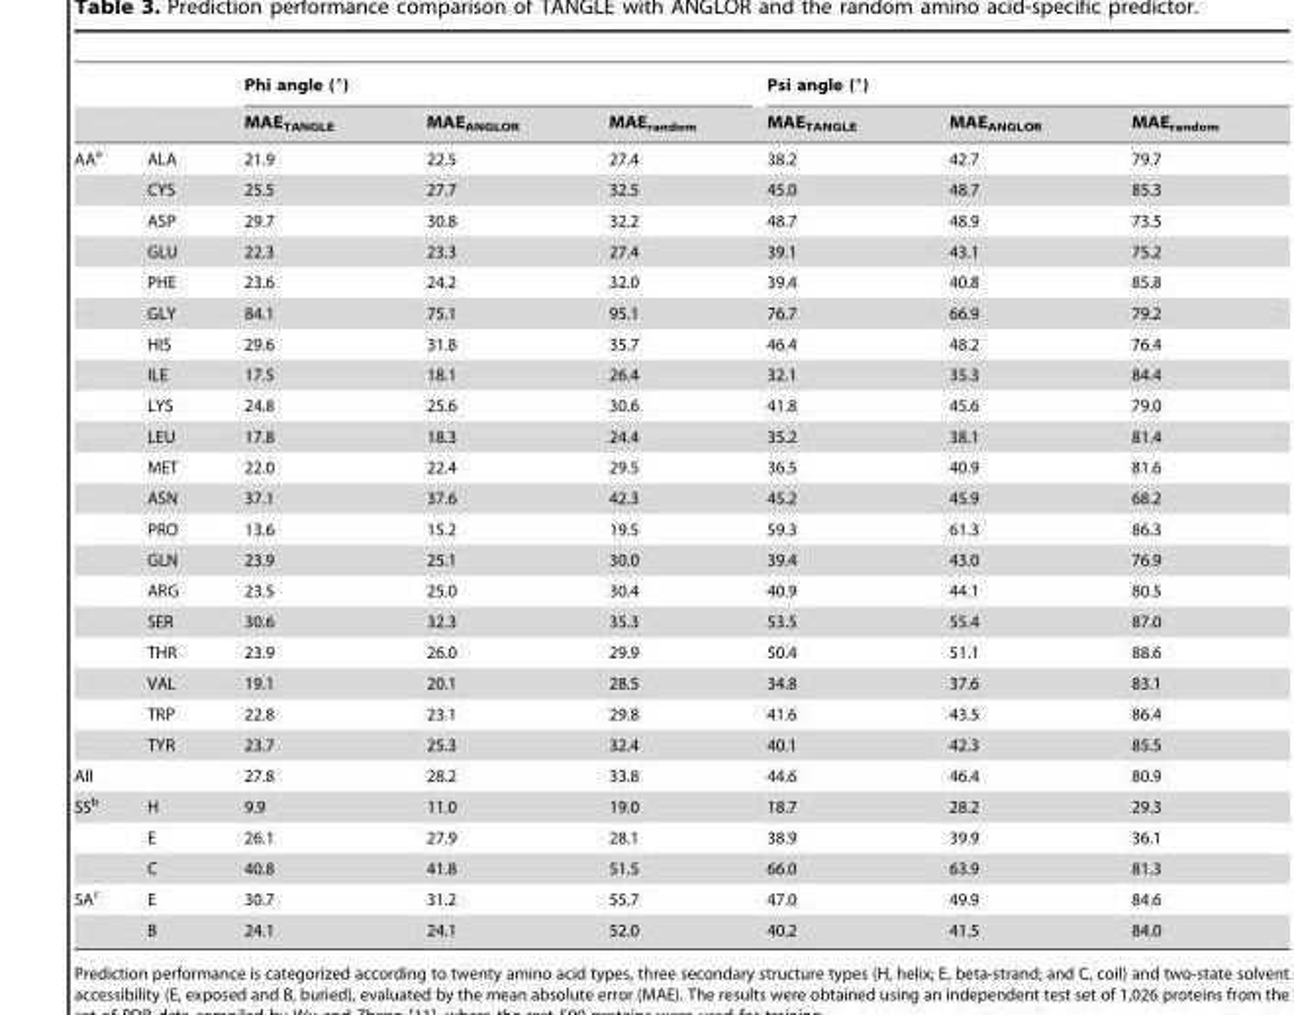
<table><thead><tr><td rowspan="2"></td><td rowspan="2"></td><td colspan="3">Phi angle (°)</td><td colspan="3">Psi angle (°)</td></tr><tr><td>MAE<sub>TANGLE</sub></td><td>MAE<sub>ANGLOR</sub></td><td>MAE<sub>random</sub></td><td>MAE<sub>TANGLE</sub></td><td>MAE<sub>ANGLOR</sub></td><td>MAE<sub>random</sub></td></tr></thead><tbody><tr><td rowspan="20">AA<sup>a</sup></td><td>ALA</td><td>21.9</td><td>22.5</td><td>27.4</td><td>38.2</td><td>42.7</td><td>79.7</td></tr><tr><td>CYS</td><td>25.5</td><td>27.7</td><td>32.5</td><td>45.0</td><td>48.7</td><td>85.3</td></tr><tr><td>ASP</td><td>29.7</td><td>30.8</td><td>32.2</td><td>48.7</td><td>48.9</td><td>73.5</td></tr><tr><td>GLU</td><td>22.3</td><td>23.3</td><td>27.4</td><td>39.1</td><td>43.1</td><td>75.2</td></tr><tr><td>PHE</td><td>23.6</td><td>24.2</td><td>32.0</td><td>39.4</td><td>40.8</td><td>85.8</td></tr><tr><td>GLY</td><td>84.1</td><td>75.1</td><td>95.1</td><td>76.7</td><td>66.9</td><td>79.2</td></tr><tr><td>HIS</td><td>29.6</td><td>31.8</td><td>35.7</td><td>46.4</td><td>48.2</td><td>76.4</td></tr><tr><td>ILE</td><td>17.5</td><td>18.1</td><td>26.4</td><td>32.1</td><td>35.3</td><td>84.4</td></tr><tr><td>LYS</td><td>24.8</td><td>25.6</td><td>30.6</td><td>41.8</td><td>45.6</td><td>79.0</td></tr><tr><td>LEU</td><td>17.8</td><td>18.3</td><td>24.4</td><td>35.2</td><td>38.1</td><td>81.4</td></tr><tr><td>MET</td><td>22.0</td><td>22.4</td><td>29.5</td><td>36.5</td><td>40.9</td><td>81.6</td></tr><tr><td>ASN</td><td>37.1</td><td>37.6</td><td>42.3</td><td>45.2</td><td>45.9</td><td>68.2</td></tr><tr><td>PRO</td><td>13.6</td><td>15.2</td><td>19.5</td><td>59.3</td><td>61.3</td><td>86.3</td></tr><tr><td>GLN</td><td>23.9</td><td>25.1</td><td>30.0</td><td>39.4</td><td>43.0</td><td>76.9</td></tr><tr><td>ARG</td><td>23.5</td><td>25.0</td><td>30.4</td><td>40.9</td><td>44.1</td><td>80.5</td></tr><tr><td>SER</td><td>30.6</td><td>32.3</td><td>35.3</td><td>53.5</td><td>55.4</td><td>87.0</td></tr><tr><td>THR</td><td>23.9</td><td>26.0</td><td>29.9</td><td>50.4</td><td>51.1</td><td>88.6</td></tr><tr><td>VAL</td><td>19.1</td><td>20.1</td><td>28.5</td><td>34.8</td><td>37.6</td><td>83.1</td></tr><tr><td>TRP</td><td>22.8</td><td>23.1</td><td>29.8</td><td>41.6</td><td>43.5</td><td>86.4</td></tr><tr><td>TYR</td><td>23.7</td><td>25.3</td><td>32.4</td><td>40.1</td><td>42.3</td><td>85.5</td></tr><tr><td>All</td><td></td><td>27.8</td><td>28.2</td><td>33.8</td><td>44.6</td><td>46.4</td><td>80.9</td></tr><tr><td rowspan="3">SS<sup>b</sup></td><td>H</td><td>9.9</td><td>11.0</td><td>19.0</td><td>18.7</td><td>28.2</td><td>29.3</td></tr><tr><td>E</td><td>26.1</td><td>27.9</td><td>28.1</td><td>38.9</td><td>39.9</td><td>36.1</td></tr><tr><td>C</td><td>40.8</td><td>41.8</td><td>51.5</td><td>66.0</td><td>63.9</td><td>81.3</td></tr><tr><td rowspan="2">SA<sup>c</sup></td><td>E</td><td>30.7</td><td>31.2</td><td>55.7</td><td>47.0</td><td>49.9</td><td>84.6</td></tr><tr><td>B</td><td>24.1</td><td>24.1</td><td>52.0</td><td>40.2</td><td>41.5</td><td>84.0</td></tr></tbody></table>